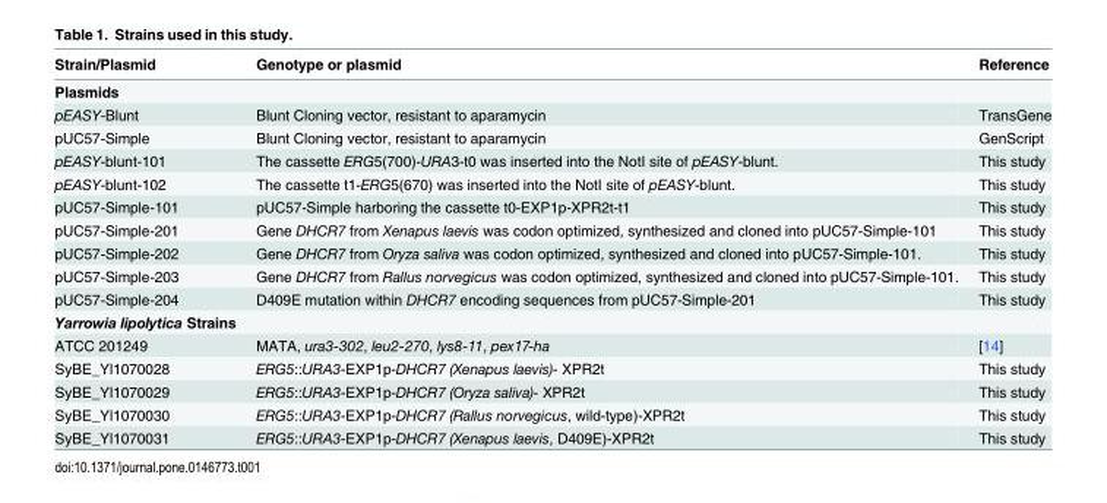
<table><thead><tr><td>Strain/Plasmid</td><td>Genotype or plasmid</td><td>Reference</td></tr></thead><tbody><tr><td colspan="3">Plasmids</td></tr><tr><td>pEASY-Blunt</td><td>Blunt Cloning vector, resistant to aparamycin</td><td>TransGene</td></tr><tr><td>pUC57-Simple</td><td>Blunt Cloning vector, resistant to aparamycin</td><td>GenScript</td></tr><tr><td>pEASY-blunt-101</td><td>The cassette ERG5(700)-URA3-t0 was inserted into the NotI site of pEASY-blunt.</td><td>This study</td></tr><tr><td>pEASY-blunt-102</td><td>The cassette t1-ERG5(670) was inserted into the NotI site of pEASY-blunt.</td><td>This study</td></tr><tr><td>pUC57-Simple-101</td><td>pUC57-Simple harboring the cassette t0-EXP1p-XPR2t-t1</td><td>This study</td></tr><tr><td>pUC57-Simple-201</td><td>Gene DHCR7 from Xenapus laevis was codon optimized, synthesized and cloned into pUC57-Simple-101</td><td>This study</td></tr><tr><td>pUC57-Simple-202</td><td>Gene DHCR7 from Oryza saliva was codon optimized, synthesized and cloned into pUC57-Simple-101.</td><td>This study</td></tr><tr><td>pUC57-Simple-203</td><td>Gene DHCR7 from Rallus norvegicus was codon optimized, synthesized and cloned into pUC57-Simple-101.</td><td>This study</td></tr><tr><td>pUC57-Simple-204</td><td>D409E mutation within DHCR7 encoding sequences from pUC57-Simple-201</td><td>This study</td></tr><tr><td colspan="3">Yarrowia lipolytica Strains</td></tr><tr><td>ATCC 201249</td><td>MATA, ura3-302, leu2-270, lys8-11, pex17-ha</td><td>[14]</td></tr><tr><td>SyBE_Yl1070028</td><td>ERG5::URA3-EXP1p-DHCR7 (Xenapus laevis)- XPR2t</td><td>This study</td></tr><tr><td>SyBE_Yl1070029</td><td>ERG5::URA3-EXP1p-DHCR7 (Oryza saliva)- XPR2t</td><td>This study</td></tr><tr><td>SyBE_Yl1070030</td><td>ERG5::URA3-EXP1p-DHCR7 (Rallus norvegicus, wild-type)-XPR2t</td><td>This study</td></tr><tr><td>SyBE_Yl1070031</td><td>ERG5::URA3-EXP1p-DHCR7 (Xenapus laevis, D409E)-XPR2t</td><td>This study</td></tr></tbody></table>